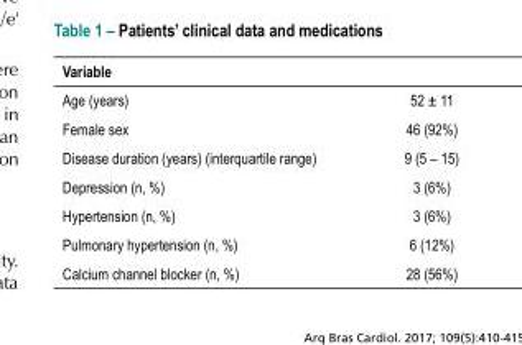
<table><thead><tr><td>Variable</td><td></td></tr></thead><tbody><tr><td>Age (years)</td><td>52 ± 11</td></tr><tr><td>Female sex</td><td>46 (92%)</td></tr><tr><td>Disease duration (years) (interquartile range)</td><td>9 (5 – 15)</td></tr><tr><td>Depression (n, %)</td><td>3 (6%)</td></tr><tr><td>Hypertension (n, %)</td><td>3 (6%)</td></tr><tr><td>Pulmonary hypertension (n, %)</td><td>6 (12%)</td></tr><tr><td>Calcium channel blocker (n, %)</td><td>28 (56%)</td></tr></tbody></table>